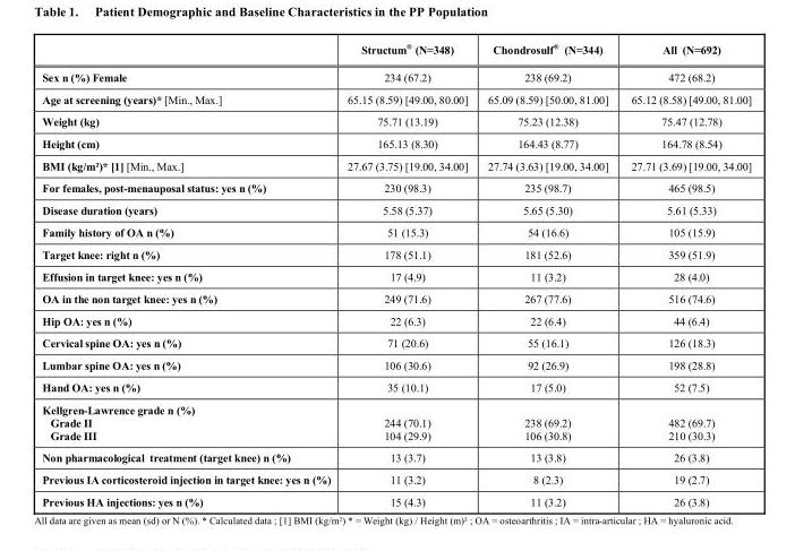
<table><thead><tr><td></td><td>Structum<sup>®</sup> (N=348)</td><td>Chondrosulf<sup>®</sup> (N=344)</td><td>All (N=692)</td></tr></thead><tbody><tr><td>Sex n (%) Female</td><td>234 (67.2)</td><td>238 (69.2)</td><td>472 (68.2)</td></tr><tr><td>Age at screening (years)* [Min., Max.]</td><td>65.15 (8.59) [49.00, 80.00]</td><td>65.09 (8.59) [50.00, 81.00]</td><td>65.12 (8.58) [49.00, 81.00]</td></tr><tr><td>Weight (kg)</td><td>75.71 (13.19)</td><td>75.23 (12.38)</td><td>75.47 (12.78)</td></tr><tr><td>Height (cm)</td><td>165.13 (8.30)</td><td>164.43 (8.77)</td><td>164.78 (8.54)</td></tr><tr><td>BMI (kg/m�)* [1] [Min., Max.]</td><td>27.67 (3.75) [19.00, 34.00]</td><td>27.74 (3.63) [19.00, 34.00]</td><td>27.71 (3.69) [19.00, 34.00]</td></tr><tr><td>For females, post-menauposal status: yes n (%)</td><td>230 (98.3)</td><td>235 (98.7)</td><td>465 (98.5)</td></tr><tr><td>Disease duration (years)</td><td>5.58 (5.37)</td><td>5.65 (5.30)</td><td>5.61 (5.33)</td></tr><tr><td>Family history of OA n (%)</td><td>51 (15.3)</td><td>54 (16.6)</td><td>105 (15.9)</td></tr><tr><td>Target knee: right n (%)</td><td>178 (51.1)</td><td>181 (52.6)</td><td>359 (51.9)</td></tr><tr><td>Effusion in target knee: yes n (%)</td><td>17 (4.9)</td><td>11 (3.2)</td><td>28 (4.0)</td></tr><tr><td>OA in the non target knee: yes n (%)</td><td>249 (71.6)</td><td>267 (77.6)</td><td>516 (74.6)</td></tr><tr><td>Hip OA: yes n (%)</td><td>22 (6.3)</td><td>22 (6.4)</td><td>44 (6.4)</td></tr><tr><td>Cervical spine OA: yes n (%)</td><td>71 (20.6)</td><td>55 (16.1)</td><td>126 (18.3)</td></tr><tr><td>Lumbar spine OA: yes n (%)</td><td>106 (30.6)</td><td>92 (26.9)</td><td>198 (28.8)</td></tr><tr><td>Hand OA: yes n (%)</td><td>35 (10.1)</td><td>17 (5.0)</td><td>52 (7.5)</td></tr><tr><td>Kellgren-Lawrence grade n (%) Grade II Grade III</td><td>244 (70.1) 104 (29.9)</td><td>238 (69.2) 106 (30.8)</td><td>482 (69.7) 210 (30.3)</td></tr><tr><td>Non pharmacological treatment (target knee) n (%)</td><td>13 (3.7)</td><td>13 (3.8)</td><td>26 (3.8)</td></tr><tr><td>Previous IA corticosteroid injection in target knee: yes n (%)</td><td>11 (3.2)</td><td>8 (2.3)</td><td>19 (2.7)</td></tr><tr><td>Previous HA injections: yes n (%)</td><td>15 (4.3)</td><td>11 (3.2)</td><td>26 (3.8)</td></tr></tbody></table>